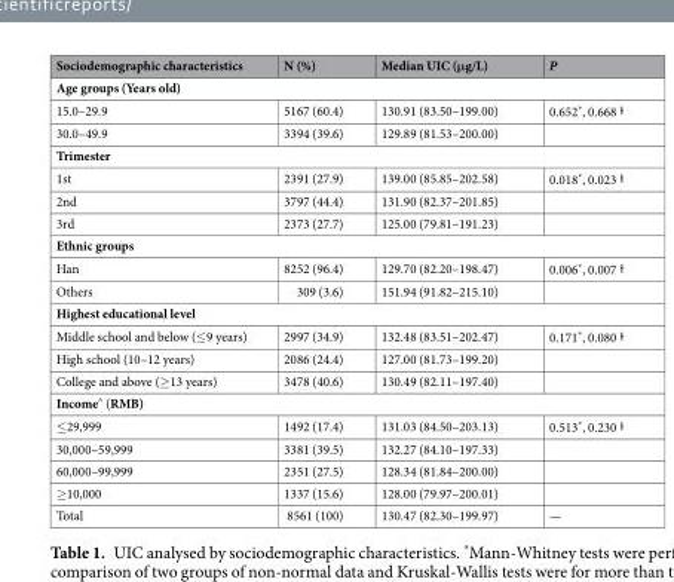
<table><thead><tr><td>Sociodemographic characteristics</td><td>N (%)</td><td>Median UIC (μg/L)</td><td>P</td></tr></thead><tbody><tr><td colspan="4">Age groups (Years old)</td></tr><tr><td>15.0–29.9</td><td>5167 (60.4)</td><td>130.91 (83.50–199.00)</td><td>0.652*, 0.668</td></tr><tr><td>30.0–49.9</td><td>3394 (39.6)</td><td>129.89 (81.53–200.00)</td><td></td></tr><tr><td colspan="4">Trimester</td></tr><tr><td>1st</td><td>2391 (27.9)</td><td>139.00 (85.85–202.58)</td><td>0.018*, 0.023</td></tr><tr><td>2nd</td><td>3797 (44.4)</td><td>131.90 (82.37–201.85)</td><td></td></tr><tr><td>3rd</td><td>2373 (27.7)</td><td>125.00 (79.81–191.23)</td><td></td></tr><tr><td colspan="4">Ethnic groups</td></tr><tr><td>Han</td><td>8252 (96.4)</td><td>129.70 (82.20–198.47)</td><td>0.006*, 0.007</td></tr><tr><td>Others</td><td>309 (3.6)</td><td>151.94 (91.82–215.10)</td><td></td></tr><tr><td colspan="4">Highest educational level</td></tr><tr><td>Middle school and below (≤9 years)</td><td>2997 (34.9)</td><td>132.48 (83.51–202.47)</td><td>0.171*, 0.080</td></tr><tr><td>High school (10–12 years)</td><td>2086 (24.4)</td><td>127.00 (81.73–199.20)</td><td></td></tr><tr><td>College and above (≥13 years)</td><td>3478 (40.6)</td><td>130.49 (82.11–197.40)</td><td></td></tr><tr><td colspan="4">Income<sup>^</sup> (RMB)</td></tr><tr><td>≤29,999</td><td>1492 (17.4)</td><td>131.03 (84.50–203.13)</td><td>0.513*, 0.230</td></tr><tr><td>30,000–59,999</td><td>3381 (39.5)</td><td>132.27 (84.10–197.33)</td><td></td></tr><tr><td>60,000–99,999</td><td>2351 (27.5)</td><td>128.34 (81.84–200.00)</td><td></td></tr><tr><td>≥10,000</td><td>1337 (15.6)</td><td>128.00 (79.97–200.01)</td><td></td></tr><tr><td>Total</td><td>8561 (100)</td><td>130.47 (82.30–199.97)</td><td>—</td></tr></tbody></table>